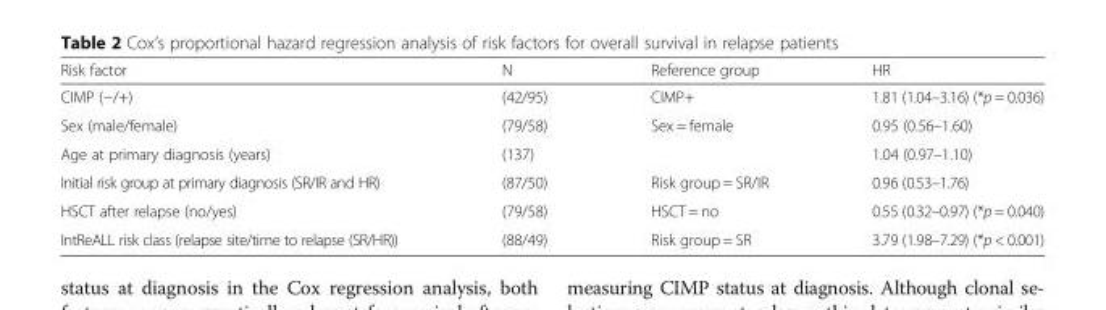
<table><thead><tr><td>Risk factor</td><td>N</td><td>Reference group</td><td>HR</td></tr></thead><tbody><tr><td>CIMP (−/+)</td><td>(42/95)</td><td>CIMP+</td><td>1.81 (1.04–3.16) (*p = 0.036)</td></tr><tr><td>Sex (male/female)</td><td>(79/58)</td><td>Sex = female</td><td>0.95 (0.56–1.60)</td></tr><tr><td>Age at primary diagnosis (years)</td><td>(137)</td><td></td><td>1.04 (0.97–1.10)</td></tr><tr><td>Initial risk group at primary diagnosis (SR/IR and HR)</td><td>(87/50)</td><td>Risk group = SR/IR</td><td>0.96 (0.53–1.76)</td></tr><tr><td>HSCT after relapse (no/yes)</td><td>(79/58)</td><td>HSCT = no</td><td>0.55 (0.32–0.97) (*p = 0.040)</td></tr><tr><td>IntReALL risk class (relapse site/time to relapse (SR/HR))</td><td>(88/49)</td><td>Risk group = SR</td><td>3.79 (1.98–7.29) (*p &lt; 0.001)</td></tr></tbody></table>